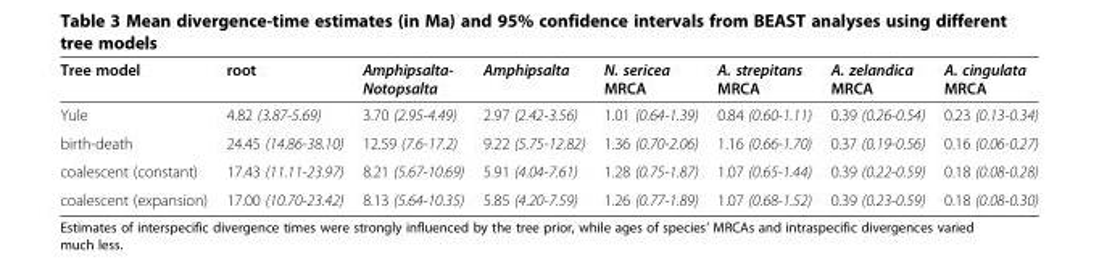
<table><thead><tr><td>Tree model</td><td>root</td><td>Amphipsalta- Notopsalta</td><td>Amphipsalta</td><td>N. sericea MRCA</td><td>A. strepitans MRCA</td><td>A. zelandica MRCA</td><td>A. cingulata MRCA</td></tr></thead><tbody><tr><td>Yule</td><td>4.82 (3.87-5.69)</td><td>3.70 (2.95-4.49)</td><td>2.97 (2.42-3.56)</td><td>1.01 (0.64-1.39)</td><td>0.84 (0.60-1.11)</td><td>0.39 (0.26-0.54)</td><td>0.23 (0.13-0.34)</td></tr><tr><td>birth-death</td><td>24.45 (14.86-38.10)</td><td>12.59 (7.6-17.2)</td><td>9.22 (5.75-12.82)</td><td>1.36 (0.70-2.06)</td><td>1.16 (0.66-1.70)</td><td>0.37 (0.19-0.56)</td><td>0.16 (0.06-0.27)</td></tr><tr><td>coalescent (constant)</td><td>17.43 (11.11-23.97)</td><td>8.21 (5.67-10.69)</td><td>5.91 (4.04-7.61)</td><td>1.28 (0.75-1.87)</td><td>1.07 (0.65-1.44)</td><td>0.39 (0.22-0.59)</td><td>0.18 (0.08-0.28)</td></tr><tr><td>coalescent (expansion)</td><td>17.00 (10.70-23.42)</td><td>8.13 (5.64-10.35)</td><td>5.85 (4.20-7.59)</td><td>1.26 (0.77-1.89)</td><td>1.07 (0.68-1.52)</td><td>0.39 (0.23-0.59)</td><td>0.18 (0.08-0.30)</td></tr></tbody></table>